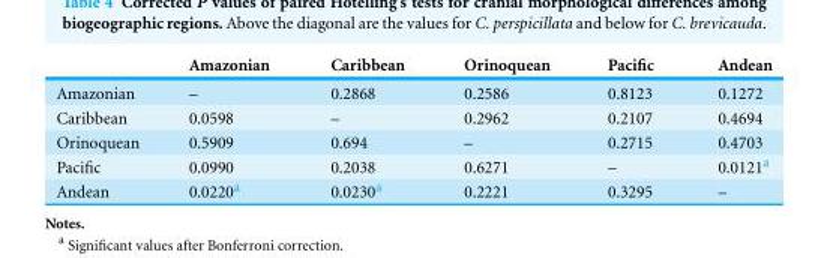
<table><thead><tr><td></td><td>Amazonian</td><td>Caribbean</td><td>Orinoquean</td><td>Pacific</td><td>Andean</td></tr></thead><tbody><tr><td>Amazonian</td><td>–</td><td>0.2868</td><td>0.2586</td><td>0.8123</td><td>0.1272</td></tr><tr><td>Caribbean</td><td>0.0598</td><td>–</td><td>0.2962</td><td>0.2107</td><td>0.4694</td></tr><tr><td>Orinoquean</td><td>0.5909</td><td>0.694</td><td>–</td><td>0.2715</td><td>0.4703</td></tr><tr><td>Pacific</td><td>0.0990</td><td>0.2038</td><td>0.6271</td><td>–</td><td>0.0121<sup>a</sup></td></tr><tr><td>Andean</td><td>0.0220<sup>a</sup></td><td>0.0230<sup>a</sup></td><td>0.2221</td><td>0.3295</td><td>–</td></tr></tbody></table>